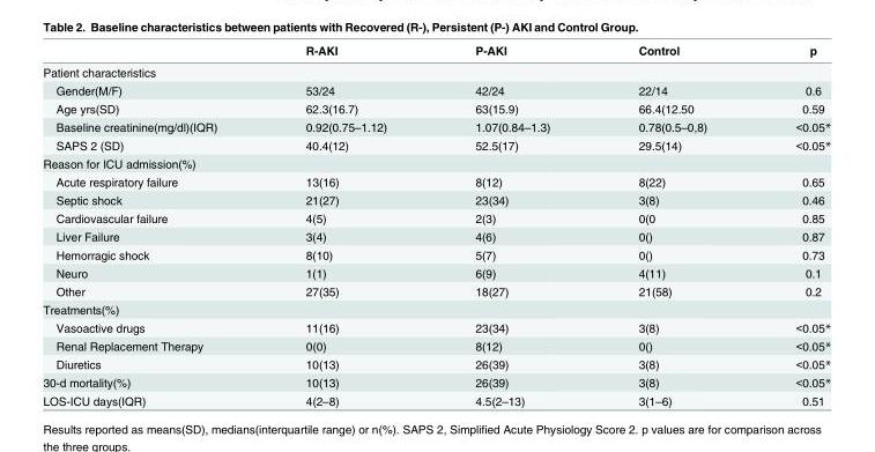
<table><thead><tr><td></td><td>R-AKI</td><td>P-AKI</td><td>Control</td><td>p</td></tr></thead><tbody><tr><td colspan="5">Patient characteristics</td></tr><tr><td>Gender(M/F)</td><td>53/24</td><td>42/24</td><td>22/14</td><td>0.6</td></tr><tr><td>Age yrs(SD)</td><td>62.3(16.7)</td><td>63(15.9)</td><td>66.4(12.50</td><td>0.59</td></tr><tr><td>Baseline creatinine(mg/dl)(IQR)</td><td>0.92(0.75–1.12)</td><td>1.07(0.84–1.3)</td><td>0.78(0.5–0,8)</td><td>&lt;0.05*</td></tr><tr><td>SAPS 2 (SD)</td><td>40.4(12)</td><td>52.5(17)</td><td>29.5(14)</td><td>&lt;0.05*</td></tr><tr><td colspan="5">Reason for ICU admission(%)</td></tr><tr><td>Acute respiratory failure</td><td>13(16)</td><td>8(12)</td><td>8(22)</td><td>0.65</td></tr><tr><td>Septic shock</td><td>21(27)</td><td>23(34)</td><td>3(8)</td><td>0.46</td></tr><tr><td>Cardiovascular failure</td><td>4(5)</td><td>2(3)</td><td>0(0</td><td>0.85</td></tr><tr><td>Liver Failure</td><td>3(4)</td><td>4(6)</td><td>0()</td><td>0.87</td></tr><tr><td>Hemorragic shock</td><td>8(10)</td><td>5(7)</td><td>0()</td><td>0.73</td></tr><tr><td>Neuro</td><td>1(1)</td><td>6(9)</td><td>4(11)</td><td>0.1</td></tr><tr><td>Other</td><td>27(35)</td><td>18(27)</td><td>21(58)</td><td>0.2</td></tr><tr><td colspan="5">Treatments(%)</td></tr><tr><td>Vasoactive drugs</td><td>11(16)</td><td>23(34)</td><td>3(8)</td><td>&lt;0.05*</td></tr><tr><td>Renal Replacement Therapy</td><td>0(0)</td><td>8(12)</td><td>0()</td><td>&lt;0.05*</td></tr><tr><td>Diuretics</td><td>10(13)</td><td>26(39)</td><td>3(8)</td><td>&lt;0.05*</td></tr><tr><td>30-d mortality(%)</td><td>10(13)</td><td>26(39)</td><td>3(8)</td><td>&lt;0.05*</td></tr><tr><td>LOS-ICU days(IQR)</td><td>4(2–8)</td><td>4.5(2–13)</td><td>3(1–6)</td><td>0.51</td></tr></tbody></table>